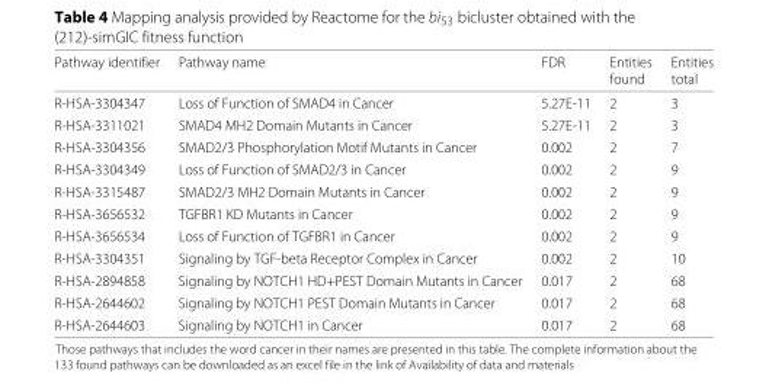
<table><thead><tr><td rowspan="2">Pathway identifier</td><td rowspan="2">Pathway name</td><td rowspan="2">FDR</td><td rowspan="2">Entities found</td><td rowspan="2">Entities total</td></tr><tr></tr></thead><tbody><tr><td>R-HSA-3304347</td><td>Loss of Function of SMAD4 in Cancer</td><td>5.27E-11</td><td>2</td><td>3</td></tr><tr><td>R-HSA-3311021</td><td>SMAD4 MH2 Domain Mutants in Cancer</td><td>5.27E-11</td><td>2</td><td>3</td></tr><tr><td>R-HSA-3304356</td><td>SMAD2/3 Phosphorylation Motif Mutants in Cancer</td><td>0.002</td><td>2</td><td>7</td></tr><tr><td>R-HSA-3304349</td><td>Loss of Function of SMAD2/3 in Cancer</td><td>0.002</td><td>2</td><td>9</td></tr><tr><td>R-HSA-3315487</td><td>SMAD2/3 MH2 Domain Mutants in Cancer</td><td>0.002</td><td>2</td><td>9</td></tr><tr><td>R-HSA-3656532</td><td>TGFBR1 KD Mutants in Cancer</td><td>0.002</td><td>2</td><td>9</td></tr><tr><td>R-HSA-3656534</td><td>Loss of Function of TGFBR1 in Cancer</td><td>0.002</td><td>2</td><td>9</td></tr><tr><td>R-HSA-3304351</td><td>Signaling by TGF-beta Receptor Complex in Cancer</td><td>0.002</td><td>2</td><td>10</td></tr><tr><td>R-HSA-2894858</td><td>Signaling by NOTCH1 HD+PEST Domain Mutants in Cancer</td><td>0.017</td><td>2</td><td>68</td></tr><tr><td>R-HSA-2644602</td><td>Signaling by NOTCH1 PEST Domain Mutants in Cancer</td><td>0.017</td><td>2</td><td>68</td></tr><tr><td>R-HSA-2644603</td><td>Signaling by NOTCH1 in Cancer</td><td>0.017</td><td>2</td><td>68</td></tr></tbody></table>